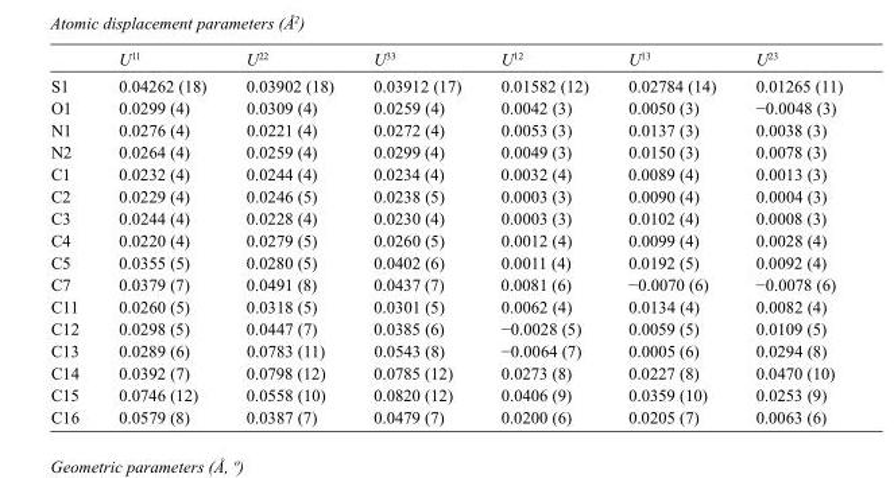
<table><thead><tr><td></td><td>U<sup>11</sup></td><td>U<sup>22</sup></td><td>U<sup>33</sup></td><td>U<sup>12</sup></td><td>U<sup>13</sup></td><td>U<sup>23</sup></td></tr></thead><tbody><tr><td>S1</td><td>0.04262 (18)</td><td>0.03902 (18)</td><td>0.03912 (17)</td><td>0.01582 (12)</td><td>0.02784 (14)</td><td>0.01265 (11)</td></tr><tr><td>O1</td><td>0.0299 (4)</td><td>0.0309 (4)</td><td>0.0259 (4)</td><td>0.0042 (3)</td><td>0.0050 (3)</td><td>−0.0048 (3)</td></tr><tr><td>N1</td><td>0.0276 (4)</td><td>0.0221 (4)</td><td>0.0272 (4)</td><td>0.0053 (3)</td><td>0.0137 (3)</td><td>0.0038 (3)</td></tr><tr><td>N2</td><td>0.0264 (4)</td><td>0.0259 (4)</td><td>0.0299 (4)</td><td>0.0049 (3)</td><td>0.0150 (3)</td><td>0.0078 (3)</td></tr><tr><td>C1</td><td>0.0232 (4)</td><td>0.0244 (4)</td><td>0.0234 (4)</td><td>0.0032 (4)</td><td>0.0089 (4)</td><td>0.0013 (3)</td></tr><tr><td>C2</td><td>0.0229 (4)</td><td>0.0246 (5)</td><td>0.0238 (5)</td><td>0.0003 (3)</td><td>0.0090 (4)</td><td>0.0004 (3)</td></tr><tr><td>C3</td><td>0.0244 (4)</td><td>0.0228 (4)</td><td>0.0230 (4)</td><td>0.0003 (3)</td><td>0.0102 (4)</td><td>0.0008 (3)</td></tr><tr><td>C4</td><td>0.0220 (4)</td><td>0.0279 (5)</td><td>0.0260 (5)</td><td>0.0012 (4)</td><td>0.0099 (4)</td><td>0.0028 (4)</td></tr><tr><td>C5</td><td>0.0355 (5)</td><td>0.0280 (5)</td><td>0.0402 (6)</td><td>0.0011 (4)</td><td>0.0192 (5)</td><td>0.0092 (4)</td></tr><tr><td>C7</td><td>0.0379 (7)</td><td>0.0491 (8)</td><td>0.0437 (7)</td><td>0.0081 (6)</td><td>−0.0070 (6)</td><td>−0.0078 (6)</td></tr><tr><td>C11</td><td>0.0260 (5)</td><td>0.0318 (5)</td><td>0.0301 (5)</td><td>0.0062 (4)</td><td>0.0134 (4)</td><td>0.0082 (4)</td></tr><tr><td>C12</td><td>0.0298 (5)</td><td>0.0447 (7)</td><td>0.0385 (6)</td><td>−0.0028 (5)</td><td>0.0059 (5)</td><td>0.0109 (5)</td></tr><tr><td>C13</td><td>0.0289 (6)</td><td>0.0783 (11)</td><td>0.0543 (8)</td><td>−0.0064 (7)</td><td>0.0005 (6)</td><td>0.0294 (8)</td></tr><tr><td>C14</td><td>0.0392 (7)</td><td>0.0798 (12)</td><td>0.0785 (12)</td><td>0.0273 (8)</td><td>0.0227 (8)</td><td>0.0470 (10)</td></tr><tr><td>C15</td><td>0.0746 (12)</td><td>0.0558 (10)</td><td>0.0820 (12)</td><td>0.0406 (9)</td><td>0.0359 (10)</td><td>0.0253 (9)</td></tr><tr><td>C16</td><td>0.0579 (8)</td><td>0.0387 (7)</td><td>0.0479 (7)</td><td>0.0200 (6)</td><td>0.0205 (7)</td><td>0.0063 (6)</td></tr></tbody></table>